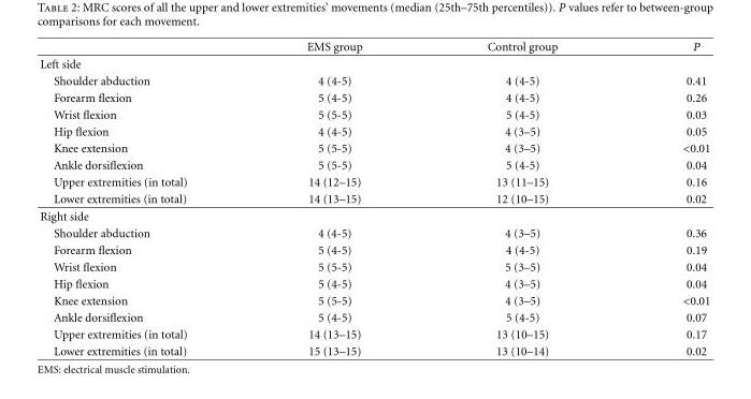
<table><thead><tr><td></td><td>EMS group</td><td>Control group</td><td>P</td></tr></thead><tbody><tr><td colspan="4">Left side</td></tr><tr><td>Shoulder abduction</td><td>4 (4-5)</td><td>4 (4-5)</td><td>0.41</td></tr><tr><td>Forearm flexion</td><td>5 (4-5)</td><td>4 (4-5)</td><td>0.26</td></tr><tr><td>Wrist flexion</td><td>5 (5-5)</td><td>5 (4-5)</td><td>0.03</td></tr><tr><td>Hip flexion</td><td>4 (4-5)</td><td>4 (3–5)</td><td>0.05</td></tr><tr><td>Knee extension</td><td>5 (5-5)</td><td>4 (3–5)</td><td>&lt;0.01</td></tr><tr><td>Ankle dorsiflexion</td><td>5 (5-5)</td><td>5 (4-5)</td><td>0.04</td></tr><tr><td>Upper extremities (in total)</td><td>14 (12–15)</td><td>13 (11–15)</td><td>0.16</td></tr><tr><td>Lower extremities (in total)</td><td>14 (13–15)</td><td>12 (10–15)</td><td>0.02</td></tr><tr><td colspan="4">Right side</td></tr><tr><td>Shoulder abduction</td><td>4 (4-5)</td><td>4 (3–5)</td><td>0.36</td></tr><tr><td>Forearm flexion</td><td>5 (4-5)</td><td>4 (4-5)</td><td>0.19</td></tr><tr><td>Wrist flexion</td><td>5 (5-5)</td><td>5 (3–5)</td><td>0.04</td></tr><tr><td>Hip flexion</td><td>5 (4-5)</td><td>4 (3–5)</td><td>0.04</td></tr><tr><td>Knee extension</td><td>5 (5-5)</td><td>4 (3–5)</td><td>&lt;0.01</td></tr><tr><td>Ankle dorsiflexion</td><td>5 (4-5)</td><td>5 (4-5)</td><td>0.07</td></tr><tr><td>Upper extremities (in total)</td><td>14 (13–15)</td><td>13 (10–15)</td><td>0.17</td></tr><tr><td>Lower extremities (in total)</td><td>15 (13–15)</td><td>13 (10–14)</td><td>0.02</td></tr></tbody></table>